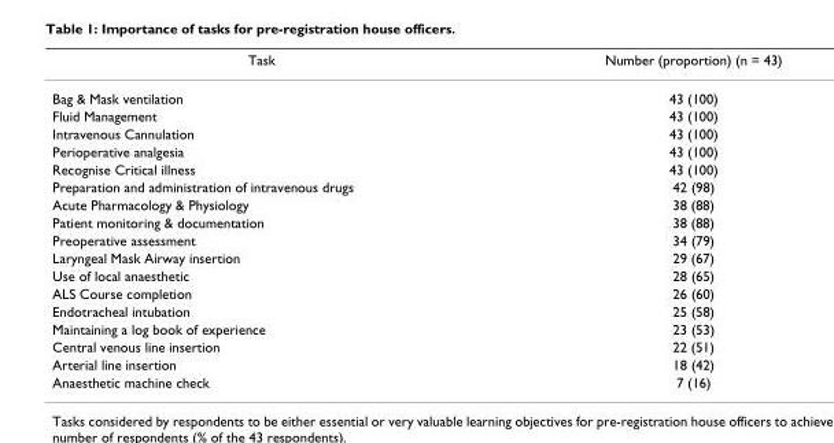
<table><thead><tr><td>Task</td><td>Number (proportion) (n = 43)</td></tr></thead><tbody><tr><td>Bag &amp; Mask ventilation</td><td>43 (100)</td></tr><tr><td>Fluid Management</td><td>43 (100)</td></tr><tr><td>Intravenous Cannulation</td><td>43 (100)</td></tr><tr><td>Perioperative analgesia</td><td>43 (100)</td></tr><tr><td>Recognise Critical illness</td><td>43 (100)</td></tr><tr><td>Preparation and administration of intravenous drugs</td><td>42 (98)</td></tr><tr><td>Acute Pharmacology &amp; Physiology</td><td>38 (88)</td></tr><tr><td>Patient monitoring &amp; documentation</td><td>38 (88)</td></tr><tr><td>Preoperative assessment</td><td>34 (79)</td></tr><tr><td>Laryngeal Mask Airway insertion</td><td>29 (67)</td></tr><tr><td>Use of local anaesthetic</td><td>28 (65)</td></tr><tr><td>ALS Course completion</td><td>26 (60)</td></tr><tr><td>Endotracheal intubation</td><td>25 (58)</td></tr><tr><td>Maintaining a log book of experience</td><td>23 (53)</td></tr><tr><td>Central venous line insertion</td><td>22 (51)</td></tr><tr><td>Arterial line insertion</td><td>18 (42)</td></tr><tr><td>Anaesthetic machine check</td><td>7 (16)</td></tr></tbody></table>